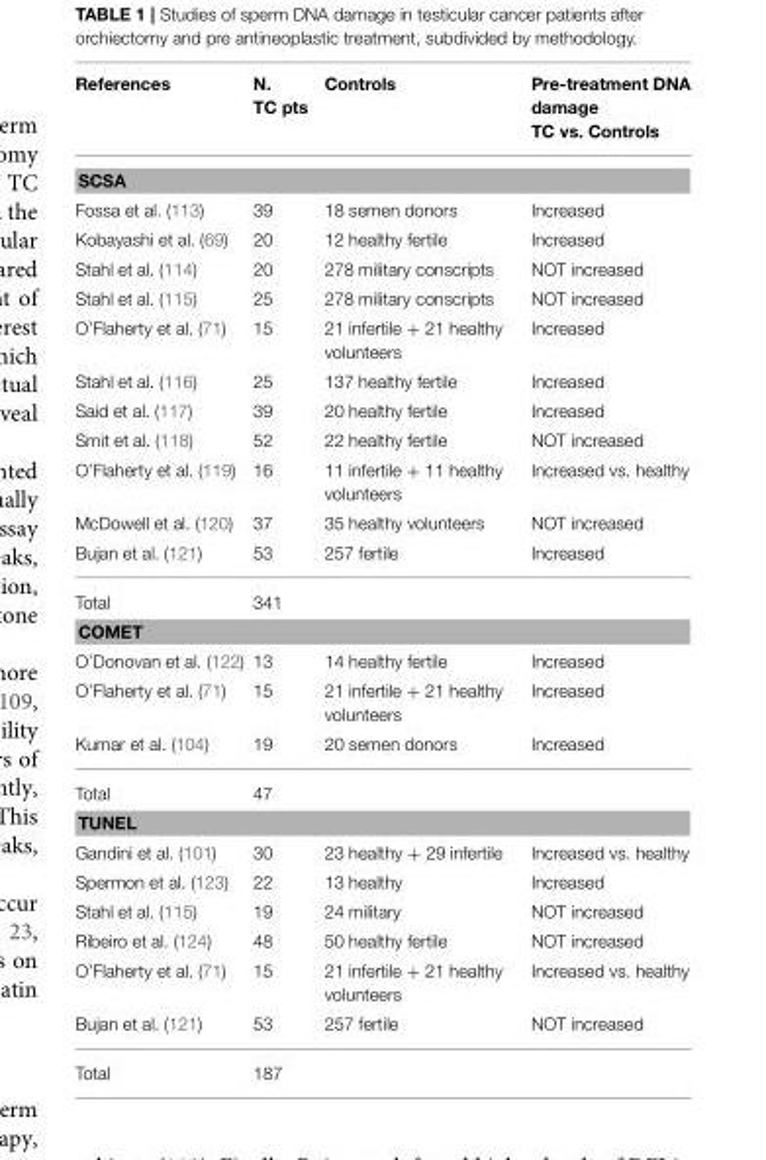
<table><thead><tr><td>References</td><td>N. TC pts</td><td>Controls</td><td>Pre-treatment DNA damage TC vs. Controls</td></tr></thead><tbody><tr><td colspan="4">SCSA</td></tr><tr><td>Fossa et al. (113)</td><td>39</td><td>18 semen donors</td><td>Increased</td></tr><tr><td>Kobayashi et al. (69)</td><td>20</td><td>12 healthy fertile</td><td>Increased</td></tr><tr><td>Stahl et al. (114)</td><td>20</td><td>278 military conscripts</td><td>NOT increased</td></tr><tr><td>Stahl et al. (115)</td><td>25</td><td>278 military conscripts</td><td>NOT increased</td></tr><tr><td>O’Flaherty et al. (71)</td><td>15</td><td>21 infertile + 21 healthy volunteers</td><td>Increased</td></tr><tr><td>Stahl et al. (116)</td><td>25</td><td>137 healthy fertile</td><td>Increased</td></tr><tr><td>Said et al. (117)</td><td>39</td><td>20 healthy fertile</td><td>Increased</td></tr><tr><td>Smit et al. (118)</td><td>52</td><td>22 healthy fertile</td><td>NOT increased</td></tr><tr><td>O’Flaherty et al. (119)</td><td>16</td><td>11 infertile + 11 healthy volunteers</td><td>Increased vs. healthy</td></tr><tr><td>McDowell et al. (120)</td><td>37</td><td>35 healthy volunteers</td><td>NOT increased</td></tr><tr><td>Bujan et al. (121)</td><td>53</td><td>257 fertile</td><td>Increased</td></tr><tr><td>Total</td><td>341</td><td></td><td></td></tr><tr><td colspan="4">COMET</td></tr><tr><td>O’Donovan et al. (122)</td><td>13</td><td>14 healthy fertile</td><td>Increased</td></tr><tr><td>O’Flaherty et al. (71)</td><td>15</td><td>21 infertile + 21 healthy volunteers</td><td>Increased</td></tr><tr><td>Kumar et al. (104)</td><td>19</td><td>20 semen donors</td><td>Increased</td></tr><tr><td>Total</td><td>47</td><td></td><td></td></tr><tr><td colspan="4">TUNEL</td></tr><tr><td>Gandini et al. (101)</td><td>30</td><td>23 healthy + 29 infertile</td><td>Increased vs. healthy</td></tr><tr><td>Spermon et al. (123)</td><td>22</td><td>13 healthy</td><td>Increased</td></tr><tr><td>Stahl et al. (115)</td><td>19</td><td>24 military</td><td>NOT increased</td></tr><tr><td>Ribeiro et al. (124)</td><td>48</td><td>50 healthy fertile</td><td>NOT increased</td></tr><tr><td>O’Flaherty et al. (71)</td><td>15</td><td>21 infertile + 21 healthy volunteers</td><td>Increased vs. healthy</td></tr><tr><td>Bujan et al. (121)</td><td>53</td><td>257 fertile</td><td>NOT increased</td></tr><tr><td>Total</td><td>187</td><td></td><td></td></tr></tbody></table>